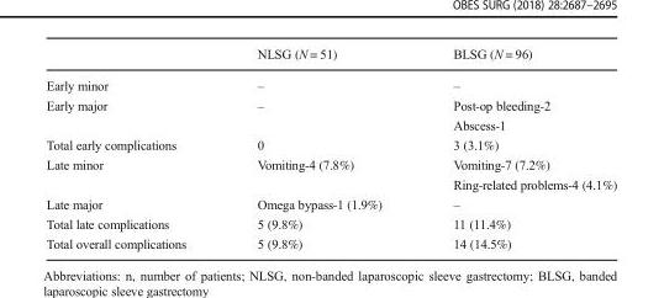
<table><thead><tr><td></td><td>NLSG (N = 51)</td><td>BLSG (N = 96)</td></tr></thead><tbody><tr><td>Early minor</td><td>–</td><td>–</td></tr><tr><td rowspan="2">Early major</td><td>–</td><td>Post-op bleeding-2</td></tr><tr><td></td><td>Abscess-1</td></tr><tr><td>Total early complications</td><td>0</td><td>3 (3.1%)</td></tr><tr><td rowspan="2">Late minor</td><td>Vomiting-4 (7.8%)</td><td>Vomiting-7 (7.2%)</td></tr><tr><td></td><td>Ring-related problems-4 (4.1%)</td></tr><tr><td>Late major</td><td>Omega bypass-1 (1.9%)</td><td>–</td></tr><tr><td>Total late complications</td><td>5 (9.8%)</td><td>11 (11.4%)</td></tr><tr><td>Total overall complications</td><td>5 (9.8%)</td><td>14 (14.5%)</td></tr></tbody></table>